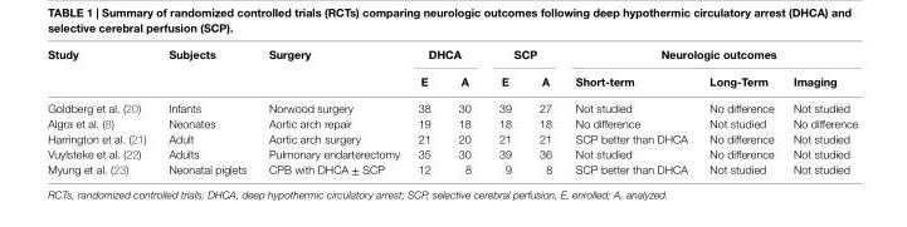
<table><thead><tr><td rowspan="2">study</td><td rowspan="2">subjects</td><td rowspan="2">surgery</td><td colspan="2">dHCa</td><td colspan="2">sCp</td><td colspan="3">neurologic outcomes</td></tr><tr><td>e</td><td>a</td><td>e</td><td>a</td><td>short-term</td><td>Long-term</td><td>imaging</td></tr></thead><tbody><tr><td>Goldberg et al. (20)</td><td>Infants</td><td>Norwood surgery</td><td>38</td><td>30</td><td>39</td><td>27</td><td>Not studied</td><td>No difference</td><td>Not studied</td></tr><tr><td>Algra et al. (8)</td><td>Neonates</td><td>Aortic arch repair</td><td>19</td><td>18</td><td>18</td><td>18</td><td>No difference</td><td>Not studied</td><td>No difference</td></tr><tr><td>Harrington et al. (21)</td><td>Adult</td><td>Aortic arch surgery</td><td>21</td><td>20</td><td>21</td><td>21</td><td>SCP better than DHCA</td><td>No difference</td><td>Not studied</td></tr><tr><td>Vuylsteke et al. (22)</td><td>Adults</td><td>Pulmonary endarterectomy</td><td>35</td><td>30</td><td>39</td><td>36</td><td>Not studied</td><td>No difference</td><td>Not studied</td></tr><tr><td>Myung et al. (23)</td><td>Neonatal piglets</td><td>CPB with DHCA ± SCP</td><td>12</td><td>8</td><td>9</td><td>8</td><td>SCP better than DHCA</td><td>Not studied</td><td>Not studied</td></tr></tbody></table>